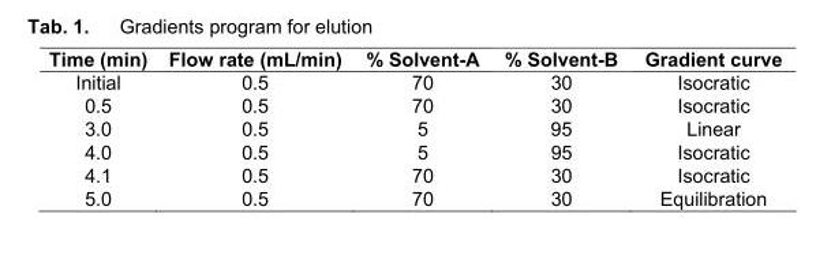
<table><thead><tr><td>Time (min)</td><td>Flow rate (mL/min)</td><td>% Solvent-A</td><td>% Solvent-B</td><td>Gradient curve</td></tr></thead><tbody><tr><td>Initial</td><td>0.5</td><td>70</td><td>30</td><td>Isocratic</td></tr><tr><td>0.5</td><td>0.5</td><td>70</td><td>30</td><td>Isocratic</td></tr><tr><td>3.0</td><td>0.5</td><td>5</td><td>95</td><td>Linear</td></tr><tr><td>4.0</td><td>0.5</td><td>5</td><td>95</td><td>Isocratic</td></tr><tr><td>4.1</td><td>0.5</td><td>70</td><td>30</td><td>Isocratic</td></tr><tr><td>5.0</td><td>0.5</td><td>70</td><td>30</td><td>Equilibration</td></tr></tbody></table>